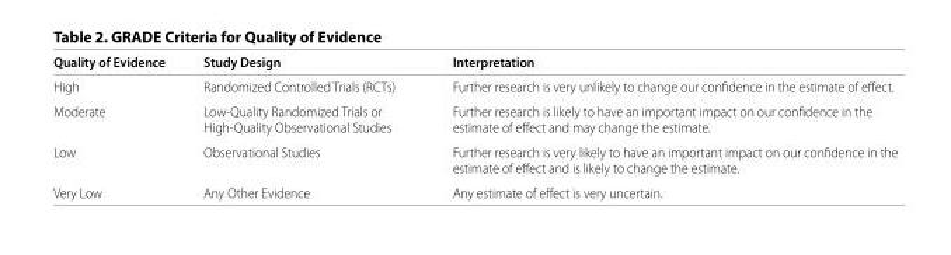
<table><thead><tr><td>Quality of Evidence</td><td>Study Design</td><td>Interpretation</td></tr></thead><tbody><tr><td>High</td><td>Randomized Controlled Trials (RCTs)</td><td>Further research is very unlikely to change our confi dence in the estimate of eff ect.</td></tr><tr><td>Moderate</td><td>Low-Quality Randomized Trials or High-Quality Observational Studies</td><td>Further research is likely to have an important impact on our confi dence in the estimate of eff ect and may change the estimate.</td></tr><tr><td>Low</td><td>Observational Studies</td><td>Further research is very likely to have an important impact on our confi dence in the estimate of eff ect and is likely to change the estimate.</td></tr><tr><td>Very Low</td><td>Any Other Evidence</td><td>Any estimate of eff ect is very uncertain.</td></tr></tbody></table>